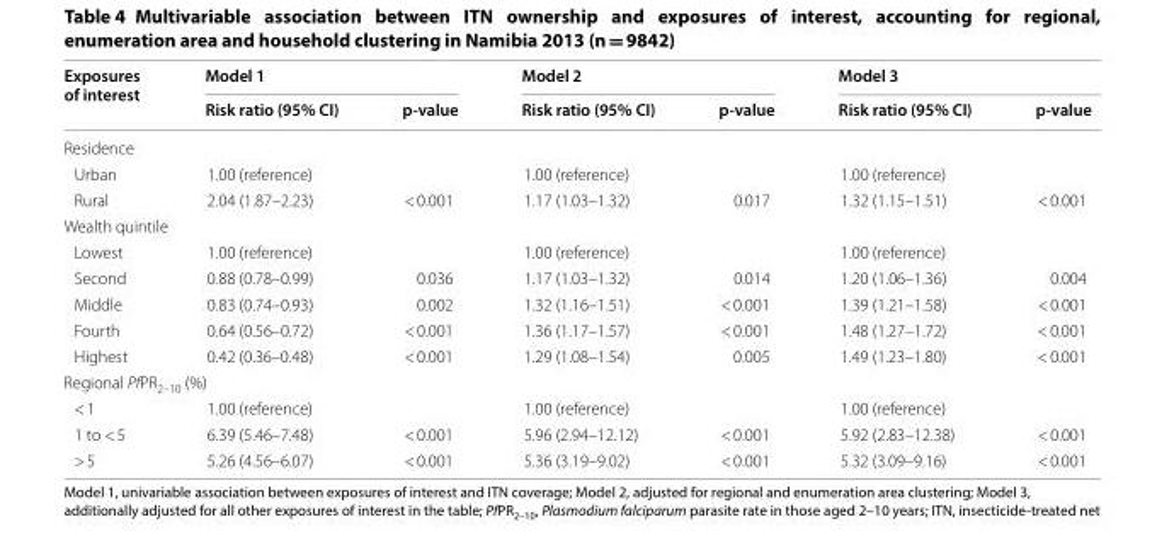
<table><thead><tr><td rowspan="2">Exposures of interest</td><td colspan="2">Model 1</td><td colspan="2">Model 2</td><td colspan="2">Model 3</td></tr><tr><td>Risk ratio (95% CI)</td><td>p-value</td><td>Risk ratio (95% CI)</td><td>p-value</td><td>Risk ratio (95% CI)</td><td>p-value</td></tr></thead><tbody><tr><td colspan="7">Residence</td></tr><tr><td>Urban</td><td>1.00 (reference)</td><td></td><td>1.00 (reference)</td><td></td><td>1.00 (reference)</td><td></td></tr><tr><td>Rural</td><td>2.04 (1.87–2.23)</td><td>&lt; 0.001</td><td>1.17 (1.03–1.32)</td><td>0.017</td><td>1.32 (1.15–1.51)</td><td>&lt; 0.001</td></tr><tr><td colspan="7">Wealth quintile</td></tr><tr><td>Lowest</td><td>1.00 (reference)</td><td></td><td>1.00 (reference)</td><td></td><td>1.00 (reference)</td><td></td></tr><tr><td>Second</td><td>0.88 (0.78–0.99)</td><td>0.036</td><td>1.17 (1.03–1.32)</td><td>0.014</td><td>1.20 (1.06–1.36)</td><td>0.004</td></tr><tr><td>Middle</td><td>0.83 (0.74–0.93)</td><td>0.002</td><td>1.32 (1.16–1.51)</td><td>&lt; 0.001</td><td>1.39 (1.21–1.58)</td><td>&lt; 0.001</td></tr><tr><td>Fourth</td><td>0.64 (0.56–0.72)</td><td>&lt; 0.001</td><td>1.36 (1.17–1.57)</td><td>&lt; 0.001</td><td>1.48 (1.27–1.72)</td><td>&lt; 0.001</td></tr><tr><td>Highest</td><td>0.42 (0.36–0.48)</td><td>&lt; 0.001</td><td>1.29 (1.08–1.54)</td><td>0.005</td><td>1.49 (1.23–1.80)</td><td>&lt; 0.001</td></tr><tr><td colspan="7">Regional PfPR<sub>2–10</sub> (%)</td></tr><tr><td>&lt; 1</td><td>1.00 (reference)</td><td></td><td>1.00 (reference)</td><td></td><td>1.00 (reference)</td><td></td></tr><tr><td>1 to &lt; 5</td><td>6.39 (5.46–7.48)</td><td>&lt; 0.001</td><td>5.96 (2.94–12.12)</td><td>&lt; 0.001</td><td>5.92 (2.83–12.38)</td><td>&lt; 0.001</td></tr><tr><td>&gt; 5</td><td>5.26 (4.56–6.07)</td><td>&lt; 0.001</td><td>5.36 (3.19–9.02)</td><td>&lt; 0.001</td><td>5.32 (3.09–9.16)</td><td>&lt; 0.001</td></tr></tbody></table>